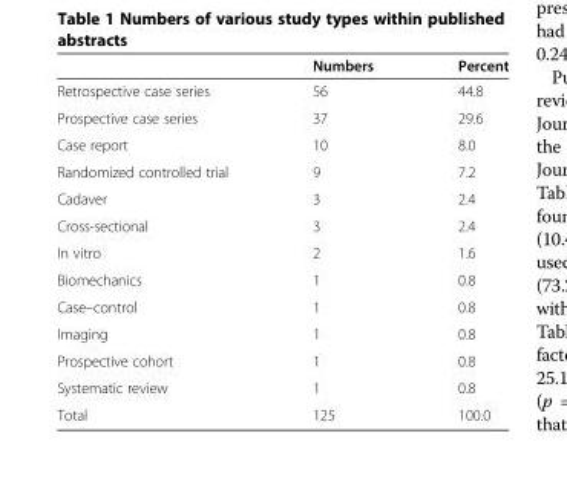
<table><thead><tr><td></td><td>Numbers</td><td>Percent</td></tr></thead><tbody><tr><td>Retrospective case series</td><td>56</td><td>44.8</td></tr><tr><td>Prospective case series</td><td>37</td><td>29.6</td></tr><tr><td>Case report</td><td>10</td><td>8.0</td></tr><tr><td>Randomized controlled trial</td><td>9</td><td>7.2</td></tr><tr><td>Cadaver</td><td>3</td><td>2.4</td></tr><tr><td>Cross-sectional</td><td>3</td><td>2.4</td></tr><tr><td>In vitro</td><td>2</td><td>1.6</td></tr><tr><td>Biomechanics</td><td>1</td><td>0.8</td></tr><tr><td>Case–control</td><td>1</td><td>0.8</td></tr><tr><td>Imaging</td><td>1</td><td>0.8</td></tr><tr><td>Prospective cohort</td><td>1</td><td>0.8</td></tr><tr><td>Systematic review</td><td>1</td><td>0.8</td></tr><tr><td>Total</td><td>125</td><td>100.0</td></tr></tbody></table>